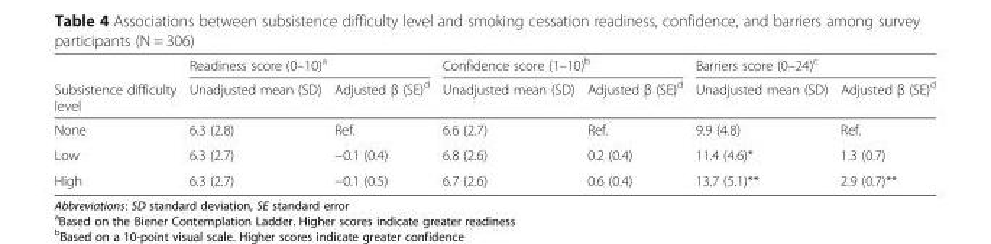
<table><thead><tr><td rowspan="2">Subsistence difficulty level</td><td colspan="2">Readiness score (0–10)<sup>a</sup></td><td colspan="2">Confidence score (1–10)<sup>b</sup></td><td colspan="2">Barriers score (0–24)<sup>c</sup></td></tr><tr><td>Unadjusted mean (SD)</td><td>Adjusted β (SE)<sup>d</sup></td><td>Unadjusted mean (SD)</td><td>Adjusted β (SE)<sup>d</sup></td><td>Unadjusted mean (SD)</td><td>Adjusted β (SE)<sup>d</sup></td></tr></thead><tbody><tr><td>None</td><td>6.3 (2.8)</td><td>Ref.</td><td>6.6 (2.7)</td><td>Ref.</td><td>9.9 (4.8)</td><td>Ref.</td></tr><tr><td>Low</td><td>6.3 (2.7)</td><td>−0.1 (0.4)</td><td>6.8 (2.6)</td><td>0.2 (0.4)</td><td>11.4 (4.6)*</td><td>1.3 (0.7)</td></tr><tr><td>High</td><td>6.3 (2.7)</td><td>−0.1 (0.5)</td><td>6.7 (2.6)</td><td>0.6 (0.4)</td><td>13.7 (5.1)**</td><td>2.9 (0.7)**</td></tr></tbody></table>